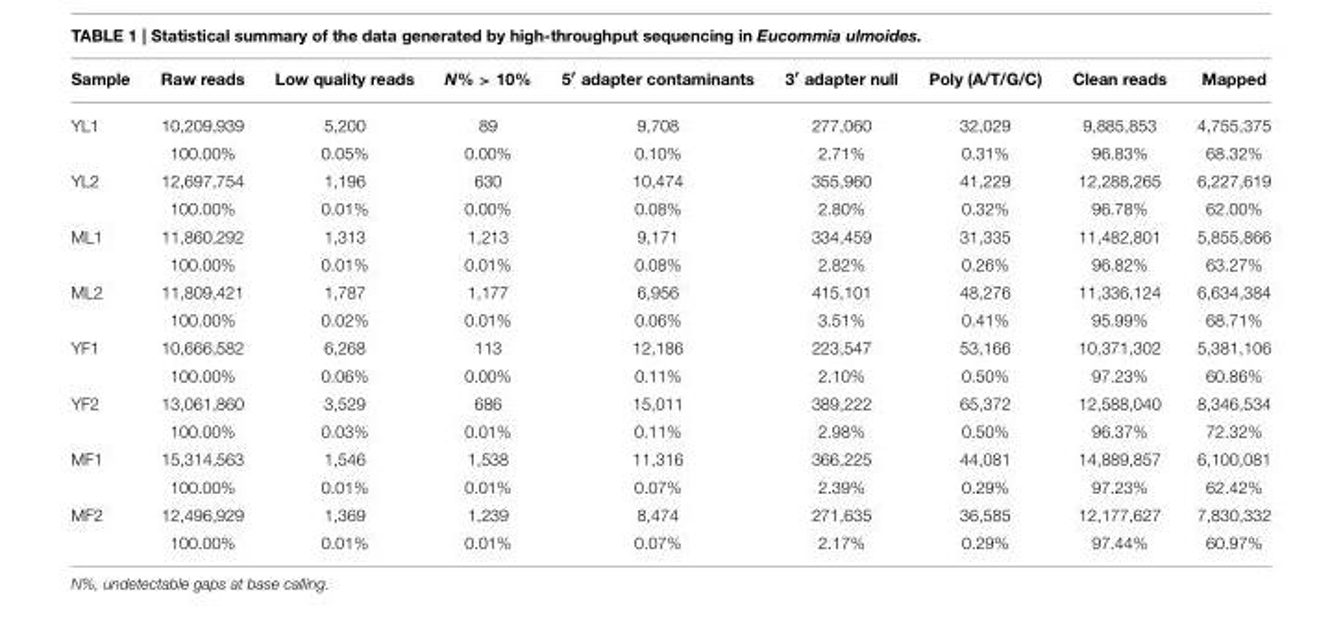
<table><thead><tr><td>Sample</td><td>Raw reads</td><td>Low quality reads</td><td>N% &gt; 10%</td><td>5′ adapter contaminants</td><td>3′ adapter null</td><td>Poly (A/T/G/C)</td><td>Clean reads</td><td>Mapped</td></tr></thead><tbody><tr><td rowspan="2">YL1</td><td>10,209,939</td><td>5,200</td><td>89</td><td>9,708</td><td>277,060</td><td>32,029</td><td>9,885,853</td><td>4,755,375</td></tr><tr><td>100.00%</td><td>0.05%</td><td>0.00%</td><td>0.10%</td><td>2.71%</td><td>0.31%</td><td>96.83%</td><td>68.32%</td></tr><tr><td rowspan="2">YL2</td><td>12,697,754</td><td>1,196</td><td>630</td><td>10,474</td><td>355,960</td><td>41,229</td><td>12,288,265</td><td>6,227,619</td></tr><tr><td>100.00%</td><td>0.01%</td><td>0.00%</td><td>0.08%</td><td>2.80%</td><td>0.32%</td><td>96.78%</td><td>62.00%</td></tr><tr><td rowspan="2">ML1</td><td>11,860,292</td><td>1,313</td><td>1,213</td><td>9,171</td><td>334,459</td><td>31,335</td><td>11,482,801</td><td>5,855,866</td></tr><tr><td>100.00%</td><td>0.01%</td><td>0.01%</td><td>0.08%</td><td>2.82%</td><td>0.26%</td><td>96.82%</td><td>63.27%</td></tr><tr><td rowspan="2">ML2</td><td>11,809,421</td><td>1,787</td><td>1,177</td><td>6,956</td><td>415,101</td><td>48,276</td><td>11,336,124</td><td>6,634,384</td></tr><tr><td>100.00%</td><td>0.02%</td><td>0.01%</td><td>0.06%</td><td>3.51%</td><td>0.41%</td><td>95.99%</td><td>68.71%</td></tr><tr><td rowspan="2">YF1</td><td>10,666,582</td><td>6,268</td><td>113</td><td>12,186</td><td>223,547</td><td>53,166</td><td>10,371,302</td><td>5,381,106</td></tr><tr><td>100.00%</td><td>0.06%</td><td>0.00%</td><td>0.11%</td><td>2.10%</td><td>0.50%</td><td>97.23%</td><td>60.86%</td></tr><tr><td rowspan="2">YF2</td><td>13,061,860</td><td>3,529</td><td>686</td><td>15,011</td><td>389,222</td><td>65,372</td><td>12,588,040</td><td>8,346,534</td></tr><tr><td>100.00%</td><td>0.03%</td><td>0.01%</td><td>0.11%</td><td>2.98%</td><td>0.50%</td><td>96.37%</td><td>72.32%</td></tr><tr><td rowspan="2">MF1</td><td>15,314,563</td><td>1,546</td><td>1,538</td><td>11,316</td><td>366,225</td><td>44,081</td><td>14,889,857</td><td>6,100,081</td></tr><tr><td>100.00%</td><td>0.01%</td><td>0.01%</td><td>0.07%</td><td>2.39%</td><td>0.29%</td><td>97.23%</td><td>62.42%</td></tr><tr><td rowspan="2">MF2</td><td>12,496,929</td><td>1,369</td><td>1,239</td><td>8,474</td><td>271,635</td><td>36,585</td><td>12,177,627</td><td>7,830,332</td></tr><tr><td>100.00%</td><td>0.01%</td><td>0.01%</td><td>0.07%</td><td>2.17%</td><td>0.29%</td><td>97.44%</td><td>60.97%</td></tr></tbody></table>